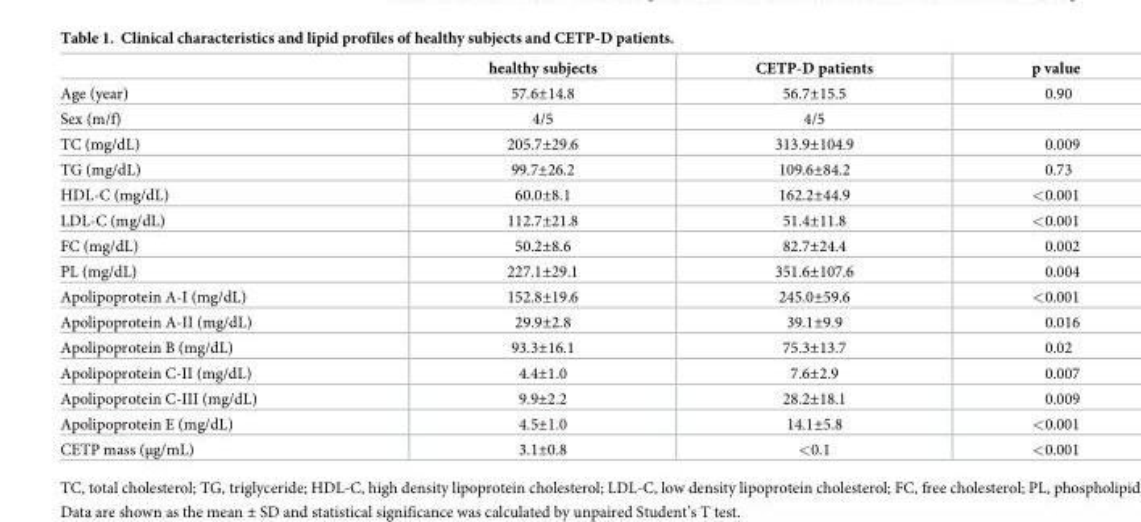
<table><thead><tr><td></td><td>healthy subjects</td><td>CETP-D patients</td><td>p value</td></tr></thead><tbody><tr><td>Age (year)</td><td>57.6±14.8</td><td>56.7±15.5</td><td>0.90</td></tr><tr><td>Sex (m/f)</td><td>4/5</td><td>4/5</td><td></td></tr><tr><td>TC (mg/dL)</td><td>205.7±29.6</td><td>313.9±104.9</td><td>0.009</td></tr><tr><td>TG (mg/dL)</td><td>99.7±26.2</td><td>109.6±84.2</td><td>0.73</td></tr><tr><td>HDL-C (mg/dL)</td><td>60.0±8.1</td><td>162.2±44.9</td><td>&lt;0.001</td></tr><tr><td>LDL-C (mg/dL)</td><td>112.7±21.8</td><td>51.4±11.8</td><td>&lt;0.001</td></tr><tr><td>FC (mg/dL)</td><td>50.2±8.6</td><td>82.7±24.4</td><td>0.002</td></tr><tr><td>PL (mg/dL)</td><td>227.1±29.1</td><td>351.6±107.6</td><td>0.004</td></tr><tr><td>Apolipoprotein A-I (mg/dL)</td><td>152.8±19.6</td><td>245.0±59.6</td><td>&lt;0.001</td></tr><tr><td>Apolipoprotein A-II (mg/dL)</td><td>29.9±2.8</td><td>39.1±9.9</td><td>0.016</td></tr><tr><td>Apolipoprotein B (mg/dL)</td><td>93.3±16.1</td><td>75.3±13.7</td><td>0.02</td></tr><tr><td>Apolipoprotein C-II (mg/dL)</td><td>4.4±1.0</td><td>7.6±2.9</td><td>0.007</td></tr><tr><td>Apolipoprotein C-III (mg/dL)</td><td>9.9±2.2</td><td>28.2±18.1</td><td>0.009</td></tr><tr><td>Apolipoprotein E (mg/dL)</td><td>4.5±1.0</td><td>14.1±5.8</td><td>&lt;0.001</td></tr><tr><td>CETP mass (μg/mL)</td><td>3.1±0.8</td><td>&lt;0.1</td><td>&lt;0.001</td></tr></tbody></table>